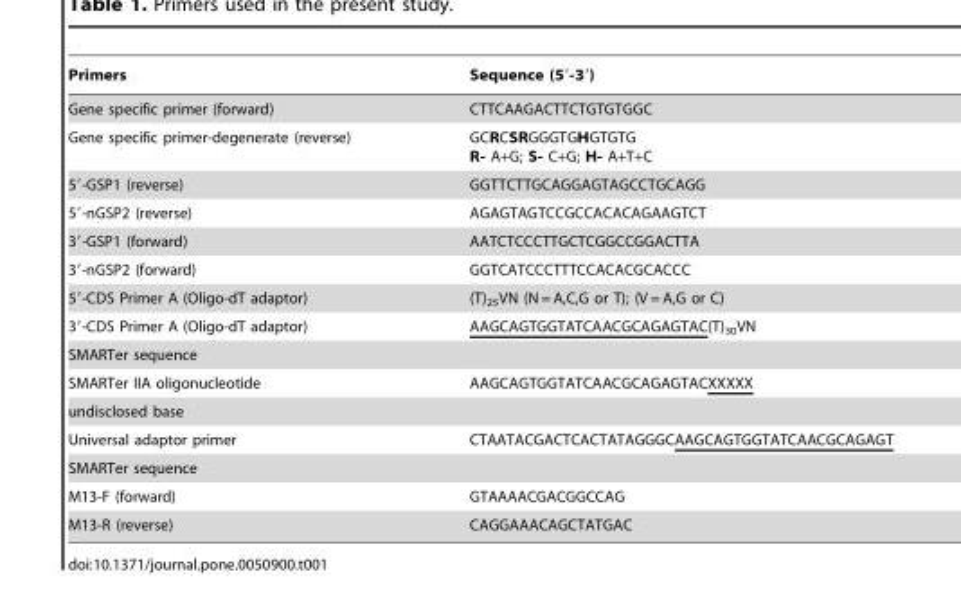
<table><thead><tr><td>Primers</td><td>Sequence (5′-3′)</td></tr></thead><tbody><tr><td>Gene specific primer (forward)</td><td>CTTCAAGACTTCTGTGTGGC</td></tr><tr><td>Gene specific primer-degenerate (reverse)</td><td>GCRCSRGGGTGHGTGTG R- A+G; S- C+G; H- A+T+C</td></tr><tr><td>5′-GSP1 (reverse)</td><td>GGTTCTTGCAGGAGTAGCCTGCAGG</td></tr><tr><td>5′-nGSP2 (reverse)</td><td>AGAGTAGTCCGCCACACAGAAGTCT</td></tr><tr><td>3′-GSP1 (forward)</td><td>AATCTCCCTTGCTCGGCCGGACTTA</td></tr><tr><td>3′-nGSP2 (forward)</td><td>GGTCATCCCTTTCCACACGCACCC</td></tr><tr><td>5′-CDS Primer A (Oligo-dT adaptor)</td><td>(T)<sub>25</sub>VN (N = A,C,G or T); (V = A,G or C)</td></tr><tr><td>3′-CDS Primer A (Oligo-dT adaptor)</td><td>AAGCAGTGGTATCAACGCAGAGTAC(T)<sub>30</sub>VN</td></tr><tr><td colspan="2">SMARTer sequence</td></tr><tr><td>SMARTer IIA oligonucleotide</td><td>AAGCAGTGGTATCAACGCAGAGTACXXXXX</td></tr><tr><td colspan="2">undisclosed base</td></tr><tr><td>Universal adaptor primer</td><td>CTAATACGACTCACTATAGGGCAAGCAGTGGTATCAACGCAGAGT</td></tr><tr><td colspan="2">SMARTer sequence</td></tr><tr><td>M13-F (forward)</td><td>GTAAAACGACGGCCAG</td></tr><tr><td>M13-R (reverse)</td><td>CAGGAAACAGCTATGAC</td></tr></tbody></table>